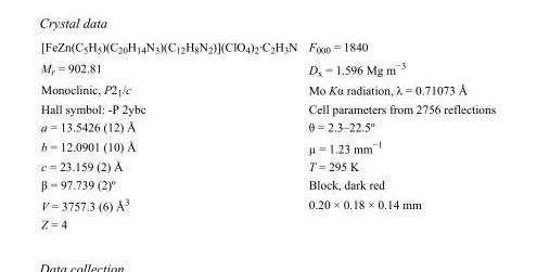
<table><tbody><tr><td>[FeZn(C<sub>5</sub>H<sub>5</sub>)(C<sub>20</sub>H<sub>14</sub>N<sub>3</sub>)(C<sub>12</sub>H<sub>8</sub>N<sub>2</sub>)](ClO<sub>4</sub>)<sub>2</sub>·C<sub>2</sub>H<sub>3</sub>N</td><td>F000 = 1840</td></tr><tr><td>M<sub>r</sub> = 902.81</td><td>D<sub>x</sub> = 1.596 Mg m<sup>−3</sup></td></tr><tr><td>Monoclinic, P2<sub>1</sub>/c</td><td>Mo Kα radiation, λ = 0.71073 Å</td></tr><tr><td>Hall symbol: -P 2ybc</td><td>Cell parameters from 2756 reflections</td></tr><tr><td>a = 13.5426 (12) Å</td><td>θ = 2.3–22.5º</td></tr><tr><td>b = 12.0901 (10) Å</td><td>µ = 1.23 mm<sup>−1</sup></td></tr><tr><td>c = 23.159 (2) Å</td><td>T = 295 K</td></tr><tr><td>β = 97.739 (2)º</td><td>Block, dark red</td></tr><tr><td>V = 3757.3 (6) Å<sup>3</sup></td><td>0.20 × 0.18 × 0.14 mm</td></tr><tr><td>Z = 4</td><td></td></tr></tbody></table>